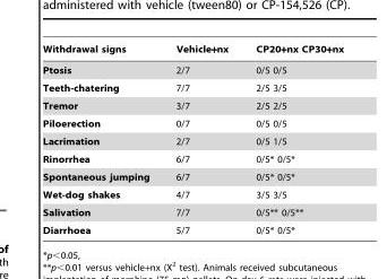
<table><thead><tr><td>Withdrawal signs</td><td>Vehicle+nx</td><td>CP20+nx CP30+nx</td></tr></thead><tbody><tr><td>Ptosis</td><td>2/7</td><td>0/5 0/5</td></tr><tr><td>Teeth-chatering</td><td>7/7</td><td>2/5 3/5</td></tr><tr><td>Tremor</td><td>3/7</td><td>2/5 2/5</td></tr><tr><td>Piloerection</td><td>0/7</td><td>0/5 0/5</td></tr><tr><td>Lacrimation</td><td>2/7</td><td>0/5 1/5</td></tr><tr><td>Rinorrhea</td><td>6/7</td><td>0/5* 0/5*</td></tr><tr><td>Spontaneous jumping</td><td>6/7</td><td>0/5* 0/5*</td></tr><tr><td>Wet-dog shakes</td><td>4/7</td><td>3/5 3/5</td></tr><tr><td>Salivation</td><td>7/7</td><td>0/5** 0/5**</td></tr><tr><td>Diarrhoea</td><td>5/7</td><td>0/5* 0/5*</td></tr></tbody></table>